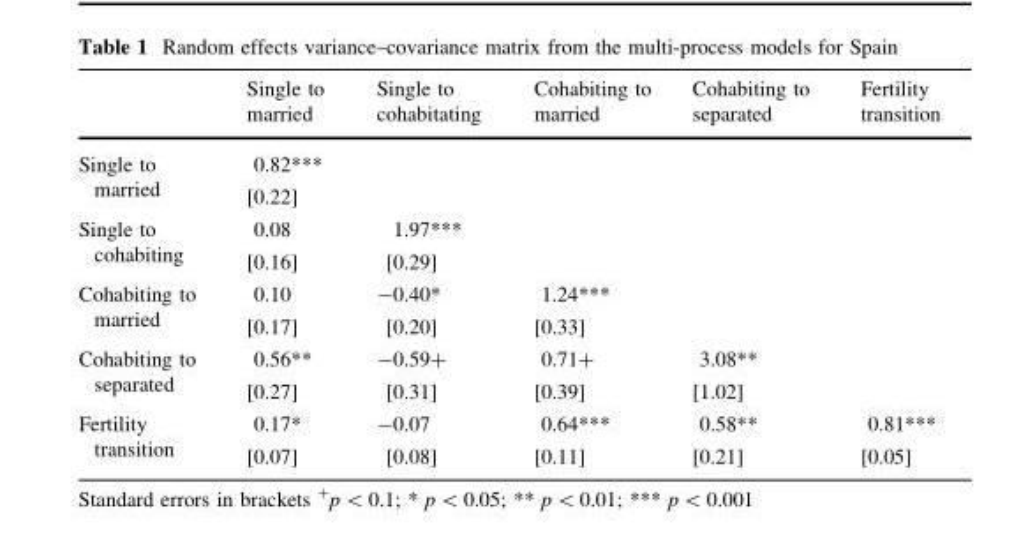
<table><thead><tr><td></td><td>Single to married</td><td>Single to cohabitating</td><td>Cohabiting to married</td><td>Cohabiting to separated</td><td>Fertility transition</td></tr></thead><tbody><tr><td rowspan="2">Single to married</td><td>0.82***</td><td></td><td></td><td></td><td></td></tr><tr><td>[0.22]</td><td></td><td></td><td></td><td></td></tr><tr><td rowspan="2">Single to cohabiting</td><td>0.08</td><td>1.97***</td><td></td><td></td><td></td></tr><tr><td>[0.16]</td><td>[0.29]</td><td></td><td></td><td></td></tr><tr><td rowspan="2">Cohabiting to married</td><td>0.10</td><td>-0.40*</td><td>1.24***</td><td></td><td></td></tr><tr><td>[0.17]</td><td>[0.20]</td><td>[0.33]</td><td></td><td></td></tr><tr><td rowspan="2">Cohabiting to separated</td><td>0.56**</td><td>-0.59+</td><td>0.71+</td><td>3.08**</td><td></td></tr><tr><td>[0.27]</td><td>[0.31]</td><td>[0.39]</td><td>[1.02]</td><td></td></tr><tr><td rowspan="2">Fertility transition</td><td>0.17*</td><td>-0.07</td><td>0.64***</td><td>0.58**</td><td>0.81***</td></tr><tr><td>[0.07]</td><td>[0.08]</td><td>[0.11]</td><td>[0.21]</td><td>[0.05]</td></tr></tbody></table>